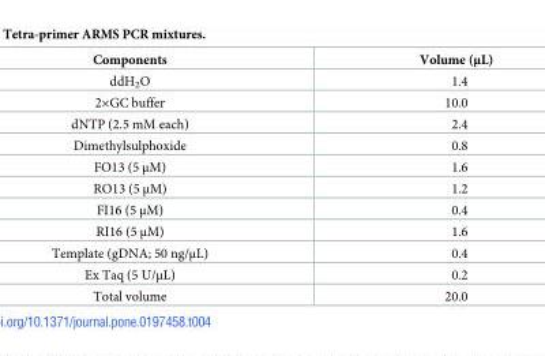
<table><thead><tr><td>Components</td><td>Volume (μL)</td></tr></thead><tbody><tr><td>ddH<sub>2</sub>O</td><td>1.4</td></tr><tr><td>2×GC buffer</td><td>10.0</td></tr><tr><td>dNTP (2.5 mM each)</td><td>2.4</td></tr><tr><td>Dimethylsulphoxide</td><td>0.8</td></tr><tr><td>FO13 (5 μM)</td><td>1.6</td></tr><tr><td>RO13 (5 μM)</td><td>1.2</td></tr><tr><td>FI16 (5 μM)</td><td>0.4</td></tr><tr><td>RI16 (5 μM)</td><td>1.6</td></tr><tr><td>Template (gDNA; 50 ng/μL)</td><td>0.4</td></tr><tr><td>Ex Taq (5 U/μL)</td><td>0.2</td></tr><tr><td>Total volume</td><td>20.0</td></tr></tbody></table>